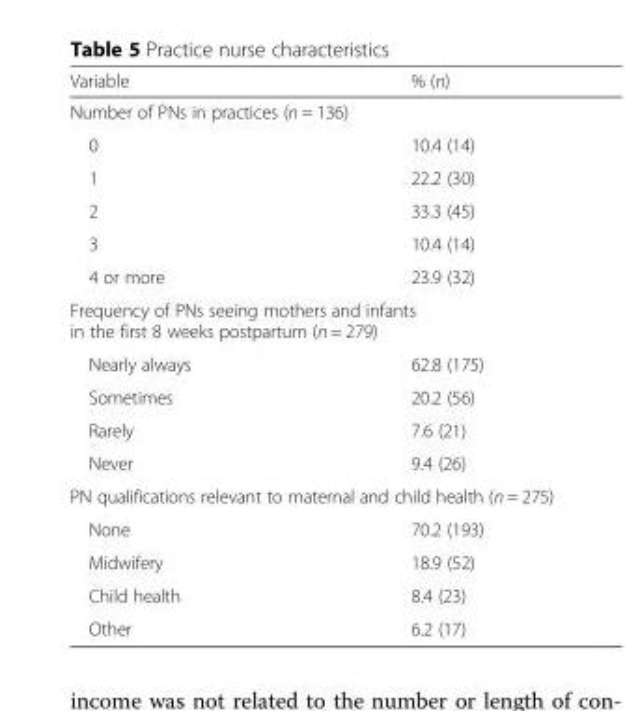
<table><thead><tr><td>Variable</td><td>% (n)</td></tr></thead><tbody><tr><td colspan="2">Number of PNs in practices (n = 136)</td></tr><tr><td>0</td><td>10.4 (14)</td></tr><tr><td>1</td><td>22.2 (30)</td></tr><tr><td>2</td><td>33.3 (45)</td></tr><tr><td>3</td><td>10.4 (14)</td></tr><tr><td>4 or more</td><td>23.9 (32)</td></tr><tr><td colspan="2">Frequency of PNs seeing mothers and infants in the first 8 weeks postpartum (n = 279)</td></tr><tr><td>Nearly always</td><td>62.8 (175)</td></tr><tr><td>Sometimes</td><td>20.2 (56)</td></tr><tr><td>Rarely</td><td>7.6 (21)</td></tr><tr><td>Never</td><td>9.4 (26)</td></tr><tr><td colspan="2">PN qualifications relevant to maternal and child health (n = 275)</td></tr><tr><td>None</td><td>70.2 (193)</td></tr><tr><td>Midwifery</td><td>18.9 (52)</td></tr><tr><td>Child health</td><td>8.4 (23)</td></tr><tr><td>Other</td><td>6.2 (17)</td></tr></tbody></table>